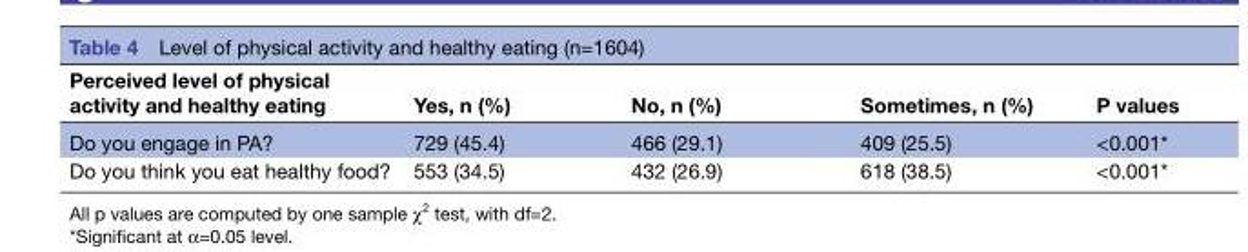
<table><thead><tr><td>Perceived level of physical activity and healthy eating</td><td>Yes, n (%)</td><td>No, n (%)</td><td>Sometimes, n (%)</td><td>P values</td></tr></thead><tbody><tr><td>Do you engage in PA?</td><td>729 (45.4)</td><td>466 (29.1)</td><td>409 (25.5)</td><td>&lt;0.001*</td></tr><tr><td>Do you think you eat healthy food?</td><td>553 (34.5)</td><td>432 (26.9)</td><td>618 (38.5)</td><td>&lt;0.001*</td></tr></tbody></table>